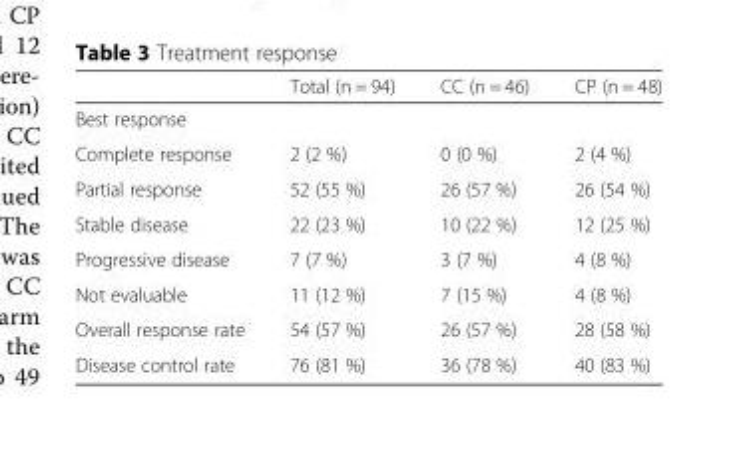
<table><thead><tr><td></td><td>Total (n = 94)</td><td>CC (n = 46)</td><td>CP (n = 48)</td></tr></thead><tbody><tr><td colspan="4">Best response</td></tr><tr><td>Complete response</td><td>2 (2 %)</td><td>0 (0 %)</td><td>2 (4 %)</td></tr><tr><td>Partial response</td><td>52 (55 %)</td><td>26 (57 %)</td><td>26 (54 %)</td></tr><tr><td>Stable disease</td><td>22 (23 %)</td><td>10 (22 %)</td><td>12 (25 %)</td></tr><tr><td>Progressive disease</td><td>7 (7 %)</td><td>3 (7 %)</td><td>4 (8 %)</td></tr><tr><td>Not evaluable</td><td>11 (12 %)</td><td>7 (15 %)</td><td>4 (8 %)</td></tr><tr><td>Overall response rate</td><td>54 (57 %)</td><td>26 (57 %)</td><td>28 (58 %)</td></tr><tr><td>Disease control rate</td><td>76 (81 %)</td><td>36 (78 %)</td><td>40 (83 %)</td></tr></tbody></table>